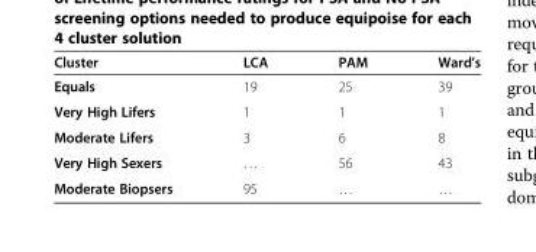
<table><thead><tr><td>Cluster</td><td>LCA</td><td>PAM</td><td>Ward’s</td></tr></thead><tbody><tr><td>Equals</td><td>19</td><td>25</td><td>39</td></tr><tr><td>Very High Lifers</td><td>1</td><td>1</td><td>1</td></tr><tr><td>Moderate Lifers</td><td>3</td><td>6</td><td>8</td></tr><tr><td>Very High Sexers</td><td>…</td><td>56</td><td>43</td></tr><tr><td>Moderate Biopsers</td><td>95</td><td>…</td><td>…</td></tr></tbody></table>